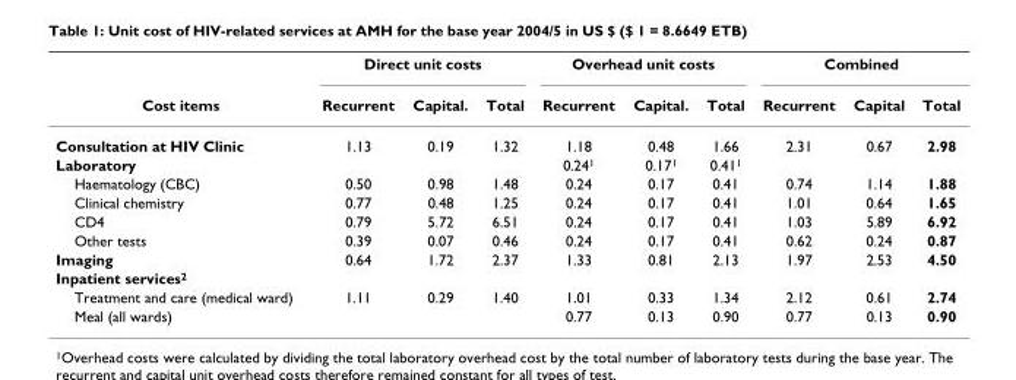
<table><thead><tr><td rowspan="2">Cost items</td><td colspan="3">Direct unit costs</td><td colspan="3">Overhead unit costs</td><td colspan="3">Combined</td></tr><tr><td>Recurrent</td><td>Capital.</td><td>Total</td><td>Recurrent</td><td>Capital.</td><td>Total</td><td>Recurrent</td><td>Capital</td><td>Total</td></tr></thead><tbody><tr><td>Consultation at HIV Clinic</td><td>1.13</td><td>0.19</td><td>1.32</td><td>1.18</td><td>0.48</td><td>1.66</td><td>2.31</td><td>0.67</td><td>2.98</td></tr><tr><td>Laboratory</td><td></td><td></td><td></td><td>0.24<sup>1</sup></td><td>0.17<sup>1</sup></td><td>0.41<sup>1</sup></td><td></td><td></td><td></td></tr><tr><td>Haematology (CBC)</td><td>0.50</td><td>0.98</td><td>1.48</td><td>0.24</td><td>0.17</td><td>0.41</td><td>0.74</td><td>1.14</td><td>1.88</td></tr><tr><td>Clinical chemistry</td><td>0.77</td><td>0.48</td><td>1.25</td><td>0.24</td><td>0.17</td><td>0.41</td><td>1.01</td><td>0.64</td><td>1.65</td></tr><tr><td>CD4</td><td>0.79</td><td>5.72</td><td>6.51</td><td>0.24</td><td>0.17</td><td>0.41</td><td>1.03</td><td>5.89</td><td>6.92</td></tr><tr><td>Other tests</td><td>0.39</td><td>0.07</td><td>0.46</td><td>0.24</td><td>0.17</td><td>0.41</td><td>0.62</td><td>0.24</td><td>0.87</td></tr><tr><td>Imaging</td><td>0.64</td><td>1.72</td><td>2.37</td><td>1.33</td><td>0.81</td><td>2.13</td><td>1.97</td><td>2.53</td><td>4.50</td></tr><tr><td colspan="10">Inpatient services<sup>2</sup></td></tr><tr><td>Treatment and care (medical ward)</td><td>1.11</td><td>0.29</td><td>1.40</td><td>1.01</td><td>0.33</td><td>1.34</td><td>2.12</td><td>0.61</td><td>2.74</td></tr><tr><td>Meal (all wards)</td><td></td><td></td><td></td><td>0.77</td><td>0.13</td><td>0.90</td><td>0.77</td><td>0.13</td><td>0.90</td></tr></tbody></table>